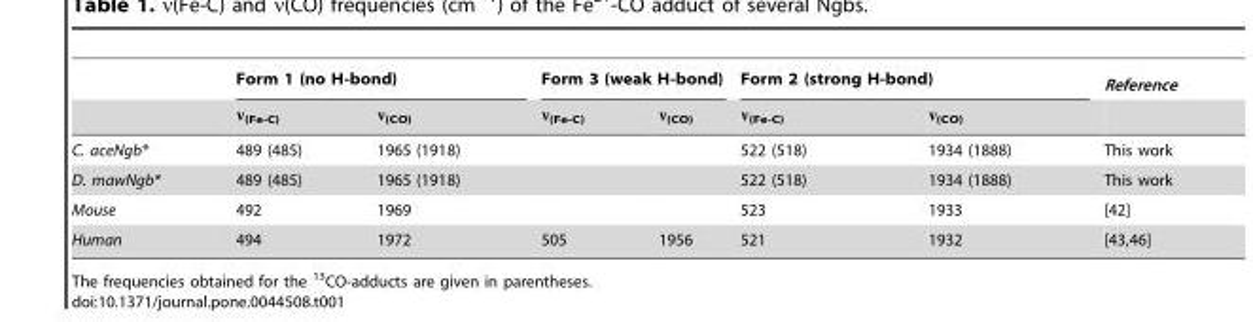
<table><thead><tr><td rowspan="2"></td><td colspan="2">Form 1 (no H-bond)</td><td colspan="2">Form 3 (weak H-bond)</td><td colspan="2">Form 2 (strong H-bond)</td><td rowspan="2">Reference</td></tr><tr><td>ν<sub>(Fe-C)</sub></td><td>ν<sub>(CO)</sub></td><td>ν<sub>(Fe-C)</sub></td><td>ν<sub>(CO)</sub></td><td>ν<sub>(Fe-C)</sub></td><td>ν<sub>(CO)</sub></td></tr></thead><tbody><tr><td>C. aceNgb*</td><td>489 (485)</td><td>1965 (1918)</td><td></td><td></td><td>522 (518)</td><td>1934 (1888)</td><td>This work</td></tr><tr><td>D. mawNgb*</td><td>489 (485)</td><td>1965 (1918)</td><td></td><td></td><td>522 (518)</td><td>1934 (1888)</td><td>This work</td></tr><tr><td>Mouse</td><td>492</td><td>1969</td><td></td><td></td><td>523</td><td>1933</td><td>[42]</td></tr><tr><td>Human</td><td>494</td><td>1972</td><td>505</td><td>1956</td><td>521</td><td>1932</td><td>[43,46]</td></tr></tbody></table>